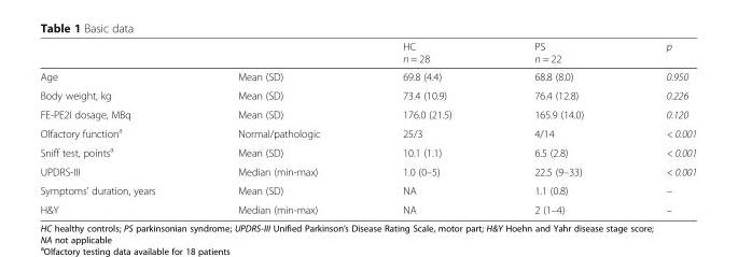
<table><thead><tr><td></td><td></td><td>HC n = 28</td><td>PS n = 22</td><td>p</td></tr></thead><tbody><tr><td>Age</td><td>Mean (SD)</td><td>69.8 (4.4)</td><td>68.8 (8.0)</td><td>0.950</td></tr><tr><td>Body weight, kg</td><td>Mean (SD)</td><td>73.4 (10.9)</td><td>76.4 (12.8)</td><td>0.226</td></tr><tr><td>FE-PE2I dosage, MBq</td><td>Mean (SD)</td><td>176.0 (21.5)</td><td>165.9 (14.0)</td><td>0.120</td></tr><tr><td>Olfactory function<sup>a</sup></td><td>Normal/pathologic</td><td>25/3</td><td>4/14</td><td>&lt; 0.001</td></tr><tr><td>Sniff test, points<sup>a</sup></td><td>Mean (SD)</td><td>10.1 (1.1)</td><td>6.5 (2.8)</td><td>&lt; 0.001</td></tr><tr><td>UPDRS-III</td><td>Median (min-max)</td><td>1.0 (0–5)</td><td>22.5 (9–33)</td><td>&lt; 0.001</td></tr><tr><td>Symptoms’ duration, years</td><td>Mean (SD)</td><td>NA</td><td>1.1 (0.8)</td><td>–</td></tr><tr><td>H&amp;Y</td><td>Median (min-max)</td><td>NA</td><td>2 (1–4)</td><td>–</td></tr></tbody></table>